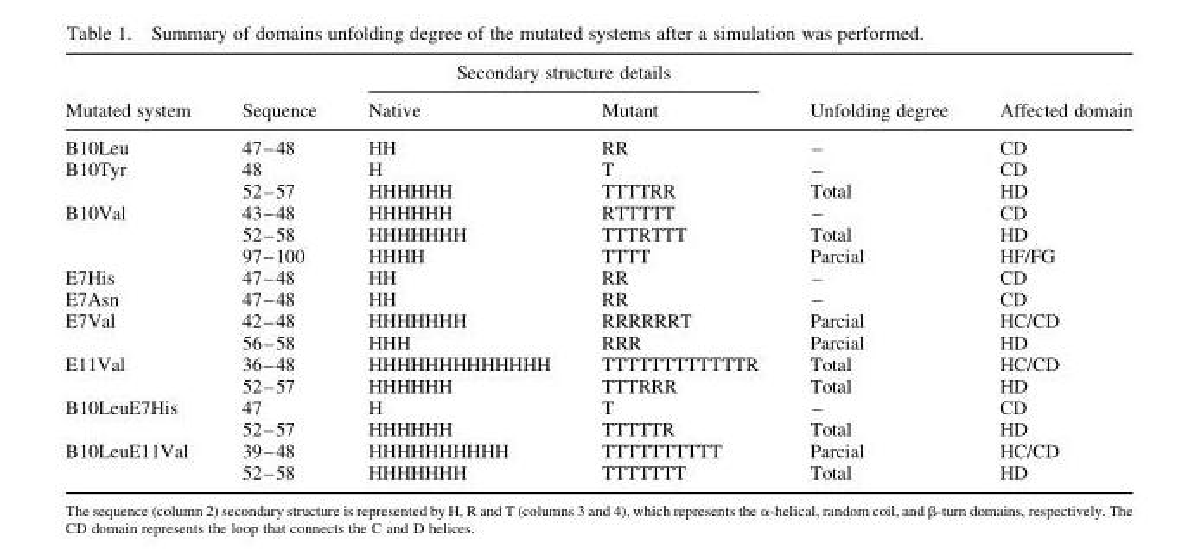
<table><thead><tr><td rowspan="2">Mutated system</td><td rowspan="2">Sequence</td><td colspan="2">Secondary structure details</td><td rowspan="2">Unfolding degree</td><td rowspan="2">Affected domain</td></tr><tr><td>Native</td><td>Mutant</td></tr></thead><tbody><tr><td>B10Leu</td><td>47–48</td><td>HH</td><td>RR</td><td>–</td><td>CD</td></tr><tr><td rowspan="2">B10Tyr</td><td>48</td><td>H</td><td>T</td><td>–</td><td>CD</td></tr><tr><td>52–57</td><td>HHHHHH</td><td>TTTTRR</td><td>Total</td><td>HD</td></tr><tr><td rowspan="3">B10Val</td><td>43–48</td><td>HHHHHH</td><td>RTTTTT</td><td>–</td><td>CD</td></tr><tr><td>52–58</td><td>HHHHHHH</td><td>TTTRTTT</td><td>Total</td><td>HD</td></tr><tr><td>97–100</td><td>HHHH</td><td>TTTT</td><td>Parcial</td><td>HF/FG</td></tr><tr><td>E7His</td><td>47–48</td><td>HH</td><td>RR</td><td>–</td><td>CD</td></tr><tr><td>E7Asn</td><td>47–48</td><td>HH</td><td>RR</td><td>–</td><td>CD</td></tr><tr><td rowspan="2">E7Val</td><td>42–48</td><td>HHHHHHH</td><td>RRRRRRT</td><td>Parcial</td><td>HC/CD</td></tr><tr><td>56–58</td><td>HHH</td><td>RRR</td><td>Parcial</td><td>HD</td></tr><tr><td rowspan="2">E11Val</td><td>36–48</td><td>HHHHHHHHHHHHH</td><td>TTTTTTTTTTTTR</td><td>Total</td><td>HC/CD</td></tr><tr><td>52–57</td><td>HHHHHH</td><td>TTTRRR</td><td>Total</td><td>HD</td></tr><tr><td rowspan="2">B10LeuE7His</td><td>47</td><td>H</td><td>T</td><td>–</td><td>CD</td></tr><tr><td>52–57</td><td>HHHHHH</td><td>TTTTTR</td><td>Total</td><td>HD</td></tr><tr><td rowspan="2">B10LeuE11Val</td><td>39–48</td><td>HHHHHHHHHH</td><td>TTTTTTTTTT</td><td>Parcial</td><td>HC/CD</td></tr><tr><td>52–58</td><td>HHHHHHH</td><td>TTTTTTT</td><td>Total</td><td>HD</td></tr></tbody></table>